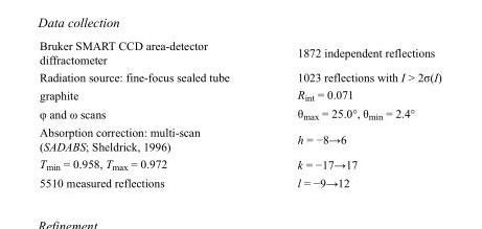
<table><tbody><tr><td>Bruker SMART CCD area-detector diffractometer</td><td>1872 independent reflections</td></tr><tr><td>Radiation source: fine-focus sealed tube</td><td>1023 reflections with I &gt; 2σ(I)</td></tr><tr><td>graphite</td><td>R<sub>int</sub> = 0.071</td></tr><tr><td>φ and ω scans</td><td>θ<sub>max</sub> = 25.0°, θ<sub>min</sub> = 2.4°</td></tr><tr><td>Absorption correction: multi-scan (SADABS; Sheldrick, 1996)</td><td>h = −8→6</td></tr><tr><td>T<sub>min</sub> = 0.958, T<sub>max</sub> = 0.972</td><td>k = −17→17</td></tr><tr><td>5510 measured reflections</td><td>l = −9→12</td></tr></tbody></table>